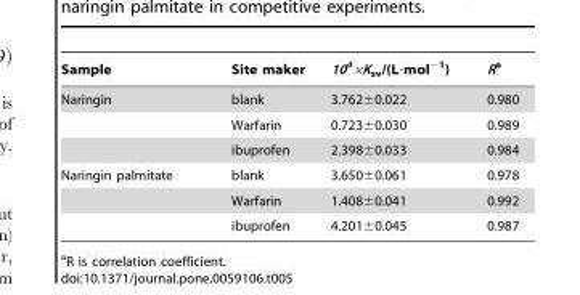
<table><thead><tr><td>Sample</td><td>Site maker</td><td>10<sup>4</sup>×K<sub>sv</sub>/(L·mol<sup>−1</sup>)</td><td>Ra</td></tr></thead><tbody><tr><td rowspan="3">Naringin</td><td>blank</td><td>3.762±0.022</td><td>0.980</td></tr><tr><td>Warfarin</td><td>0.723±0.030</td><td>0.989</td></tr><tr><td>ibuprofen</td><td>2.398±0.033</td><td>0.984</td></tr><tr><td rowspan="3">Naringin palmitate</td><td>blank</td><td>3.650±0.061</td><td>0.978</td></tr><tr><td>Warfarin</td><td>1.408±0.041</td><td>0.992</td></tr><tr><td>ibuprofen</td><td>4.201±0.045</td><td>0.987</td></tr></tbody></table>